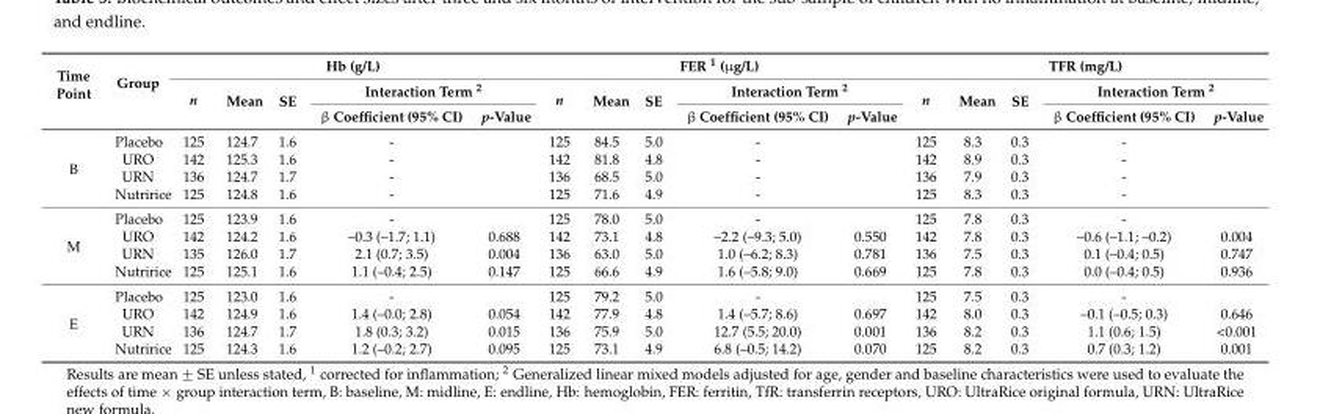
<table><thead><tr><td rowspan="3">Time Point</td><td rowspan="3">Group</td><td colspan="5">Hb (g/L)</td><td colspan="5">FER <sup>1</sup> (µg/L)</td><td colspan="5">TFR (mg/L)</td></tr><tr><td rowspan="2">n</td><td rowspan="2">Mean</td><td rowspan="2">SE</td><td colspan="2">Interaction Term <sup>2</sup></td><td rowspan="2">n</td><td rowspan="2">Mean</td><td rowspan="2">SE</td><td colspan="2">Interaction Term <sup>2</sup></td><td rowspan="2">n</td><td rowspan="2">Mean</td><td rowspan="2">SE</td><td colspan="2">Interaction Term <sup>2</sup></td></tr><tr><td>β Coefficient (95% CI)</td><td>p-Value</td><td>β Coefficient (95% CI)</td><td>p-Value</td><td>β Coefficient (95% CI)</td><td>p-Value</td></tr></thead><tbody><tr><td rowspan="4">B</td><td>Placebo</td><td>125</td><td>124.7</td><td>1.6</td><td>-</td><td></td><td>125</td><td>84.5</td><td>5.0</td><td>-</td><td></td><td>125</td><td>8.3</td><td>0.3</td><td>-</td><td></td></tr><tr><td>URO</td><td>142</td><td>125.3</td><td>1.6</td><td>-</td><td></td><td>142</td><td>81.8</td><td>4.8</td><td>-</td><td></td><td>142</td><td>8.9</td><td>0.3</td><td>-</td><td></td></tr><tr><td>URN</td><td>136</td><td>124.7</td><td>1.7</td><td>-</td><td></td><td>136</td><td>68.5</td><td>5.0</td><td>-</td><td></td><td>136</td><td>7.9</td><td>0.3</td><td>-</td><td></td></tr><tr><td>Nutririce</td><td>125</td><td>124.8</td><td>1.6</td><td>-</td><td></td><td>125</td><td>71.6</td><td>4.9</td><td>-</td><td></td><td>125</td><td>8.3</td><td>0.3</td><td>-</td><td></td></tr><tr><td rowspan="4">M</td><td>Placebo</td><td>125</td><td>123.9</td><td>1.6</td><td>-</td><td></td><td>125</td><td>78.0</td><td>5.0</td><td>-</td><td></td><td>125</td><td>7.8</td><td>0.3</td><td>-</td><td></td></tr><tr><td>URO</td><td>142</td><td>124.2</td><td>1.6</td><td>–0.3 (–1.7; 1.1)</td><td>0.688</td><td>142</td><td>73.1</td><td>4.8</td><td>–2.2 (–9.3; 5.0)</td><td>0.550</td><td>142</td><td>7.8</td><td>0.3</td><td>–0.6 (–1.1; –0.2)</td><td>0.004</td></tr><tr><td>URN</td><td>135</td><td>126.0</td><td>1.7</td><td>2.1 (0.7; 3.5)</td><td>0.004</td><td>136</td><td>63.0</td><td>5.0</td><td>1.0 (–6.2; 8.3)</td><td>0.781</td><td>136</td><td>7.5</td><td>0.3</td><td>0.1 (–0.4; 0.5)</td><td>0.747</td></tr><tr><td>Nutririce</td><td>125</td><td>125.1</td><td>1.6</td><td>1.1 (–0.4; 2.5)</td><td>0.147</td><td>125</td><td>66.6</td><td>4.9</td><td>1.6 (–5.8; 9.0)</td><td>0.669</td><td>125</td><td>7.8</td><td>0.3</td><td>0.0 (–0.4; 0.5)</td><td>0.936</td></tr><tr><td rowspan="4">E</td><td>Placebo</td><td>125</td><td>123.0</td><td>1.6</td><td>-</td><td></td><td>125</td><td>79.2</td><td>5.0</td><td>-</td><td></td><td>125</td><td>7.5</td><td>0.3</td><td>-</td><td></td></tr><tr><td>URO</td><td>142</td><td>124.9</td><td>1.6</td><td>1.4 (–0.0; 2.8)</td><td>0.054</td><td>142</td><td>77.9</td><td>4.8</td><td>1.4 (–5.7; 8.6)</td><td>0.697</td><td>142</td><td>8.0</td><td>0.3</td><td>–0.1 (–0.5; 0.3)</td><td>0.646</td></tr><tr><td>URN</td><td>136</td><td>124.7</td><td>1.7</td><td>1.8 (0.3; 3.2)</td><td>0.015</td><td>136</td><td>75.9</td><td>5.0</td><td>12.7 (5.5; 20.0)</td><td>0.001</td><td>136</td><td>8.2</td><td>0.3</td><td>1.1 (0.6; 1.5)</td><td>&lt;0.001</td></tr><tr><td>Nutririce</td><td>125</td><td>124.3</td><td>1.6</td><td>1.2 (–0.2; 2.7)</td><td>0.095</td><td>125</td><td>73.1</td><td>4.9</td><td>6.8 (–0.5; 14.2)</td><td>0.070</td><td>125</td><td>8.2</td><td>0.3</td><td>0.7 (0.3; 1.2)</td><td>0.001</td></tr></tbody></table>